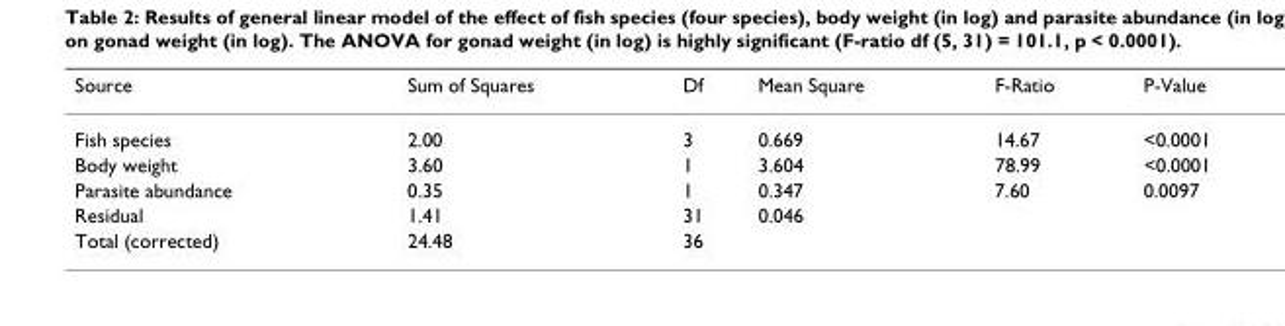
<table><thead><tr><td>Source</td><td>Sum of Squares</td><td>Df</td><td>Mean Square</td><td>F-Ratio</td><td>P-Value</td></tr></thead><tbody><tr><td>Fish species</td><td>2.00</td><td>3</td><td>0.669</td><td>14.67</td><td>&lt;0.0001</td></tr><tr><td>Body weight</td><td>3.60</td><td>1</td><td>3.604</td><td>78.99</td><td>&lt;0.0001</td></tr><tr><td>Parasite abundance</td><td>0.35</td><td>1</td><td>0.347</td><td>7.60</td><td>0.0097</td></tr><tr><td>Residual</td><td>1.41</td><td>31</td><td>0.046</td><td></td><td></td></tr><tr><td>Total (corrected)</td><td>24.48</td><td>36</td><td></td><td></td><td></td></tr></tbody></table>